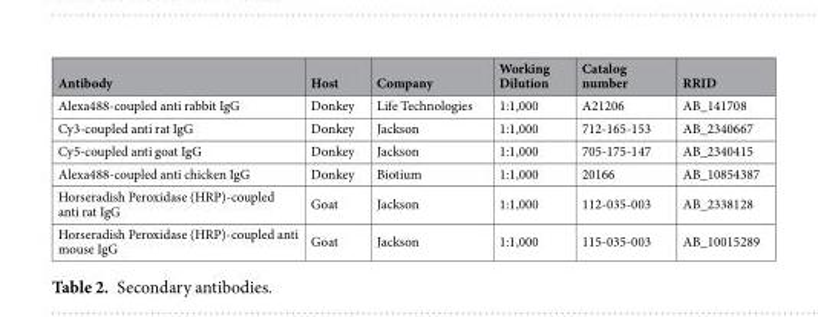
<table><thead><tr><td>Antibody</td><td>Host</td><td>Company</td><td>Working Dilution</td><td>Catalog number</td><td>RRID</td></tr></thead><tbody><tr><td>Alexa488-coupled anti rabbit IgG</td><td>Donkey</td><td>Life Technologies</td><td>1:1,000</td><td>A21206</td><td>AB_141708</td></tr><tr><td>Cy3-coupled anti rat IgG</td><td>Donkey</td><td>Jackson</td><td>1:1,000</td><td>712-165-153</td><td>AB_2340667</td></tr><tr><td>Cy5-coupled anti goat IgG</td><td>Donkey</td><td>Jackson</td><td>1:1,000</td><td>705-175-147</td><td>AB_2340415</td></tr><tr><td>Alexa488-coupled anti chicken IgG</td><td>Donkey</td><td>Biotium</td><td>1:1,000</td><td>20166</td><td>AB_10854387</td></tr><tr><td>Horseradish Peroxidase (HRP)-coupled anti rat IgG</td><td>Goat</td><td>Jackson</td><td>1:1,000</td><td>112-035-003</td><td>AB_2338128</td></tr><tr><td>Horseradish Peroxidase (HRP)-coupled anti mouse IgG</td><td>Goat</td><td>Jackson</td><td>1:1,000</td><td>115-035-003</td><td>AB_10015289</td></tr></tbody></table>